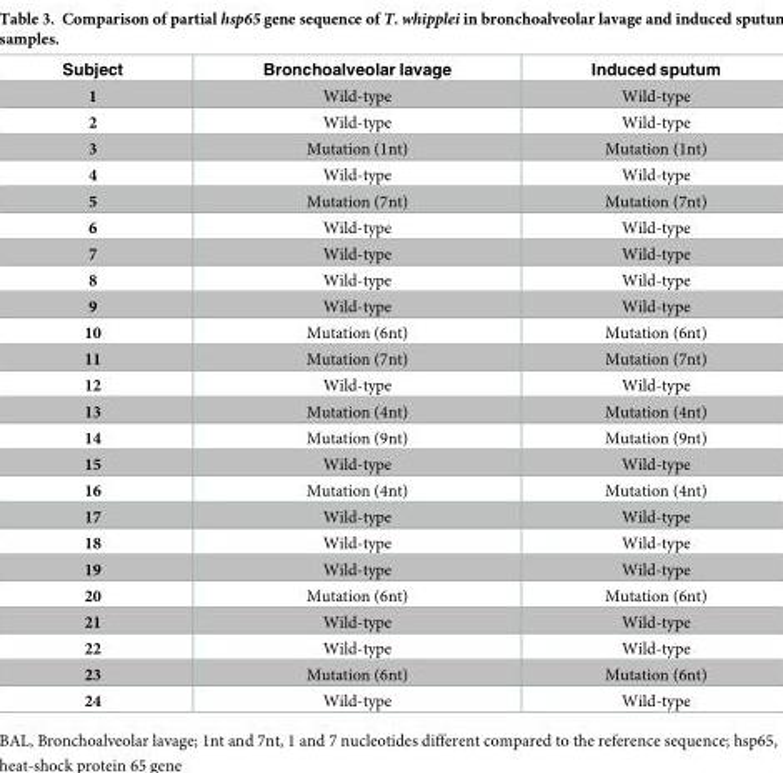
<table><thead><tr><td>Subject</td><td>Bronchoalveolar lavage</td><td>Induced sputum</td></tr></thead><tbody><tr><td>1</td><td>Wild-type</td><td>Wild-type</td></tr><tr><td>2</td><td>Wild-type</td><td>Wild-type</td></tr><tr><td>3</td><td>Mutation (1nt)</td><td>Mutation (1nt)</td></tr><tr><td>4</td><td>Wild-type</td><td>Wild-type</td></tr><tr><td>5</td><td>Mutation (7nt)</td><td>Mutation (7nt)</td></tr><tr><td>6</td><td>Wild-type</td><td>Wild-type</td></tr><tr><td>7</td><td>Wild-type</td><td>Wild-type</td></tr><tr><td>8</td><td>Wild-type</td><td>Wild-type</td></tr><tr><td>9</td><td>Wild-type</td><td>Wild-type</td></tr><tr><td>10</td><td>Mutation (6nt)</td><td>Mutation (6nt)</td></tr><tr><td>11</td><td>Mutation (7nt)</td><td>Mutation (7nt)</td></tr><tr><td>12</td><td>Wild-type</td><td>Wild-type</td></tr><tr><td>13</td><td>Mutation (4nt)</td><td>Mutation (4nt)</td></tr><tr><td>14</td><td>Mutation (9nt)</td><td>Mutation (9nt)</td></tr><tr><td>15</td><td>Wild-type</td><td>Wild-type</td></tr><tr><td>16</td><td>Mutation (4nt)</td><td>Mutation (4nt)</td></tr><tr><td>17</td><td>Wild-type</td><td>Wild-type</td></tr><tr><td>18</td><td>Wild-type</td><td>Wild-type</td></tr><tr><td>19</td><td>Wild-type</td><td>Wild-type</td></tr><tr><td>20</td><td>Mutation (6nt)</td><td>Mutation (6nt)</td></tr><tr><td>21</td><td>Wild-type</td><td>Wild-type</td></tr><tr><td>22</td><td>Wild-type</td><td>Wild-type</td></tr><tr><td>23</td><td>Mutation (6nt)</td><td>Mutation (6nt)</td></tr><tr><td>24</td><td>Wild-type</td><td>Wild-type</td></tr></tbody></table>